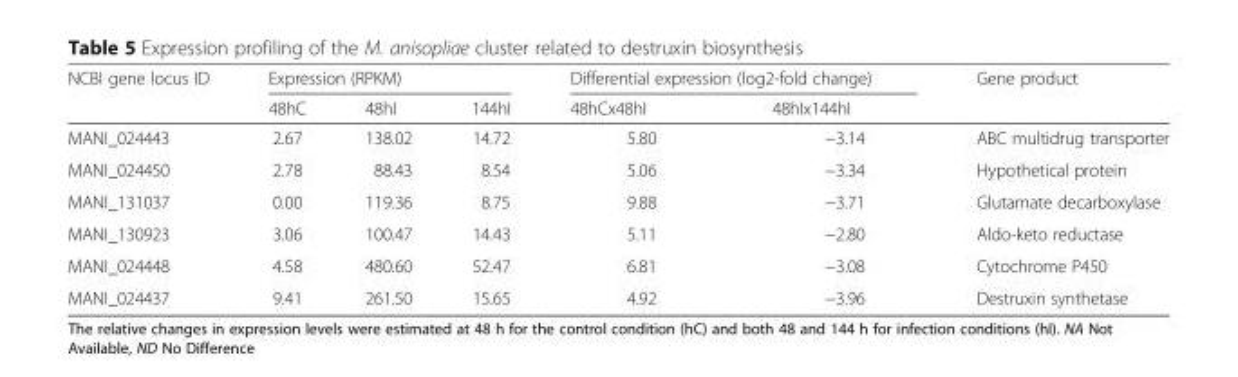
<table><thead><tr><td rowspan="2">NCBI gene locus ID</td><td colspan="3">Expression (RPKM)</td><td colspan="2">Differential expression (log2-fold change)</td><td rowspan="2">Gene product</td></tr><tr><td>48hC</td><td>48hI</td><td>144hI</td><td>48hCx48hI</td><td>48hIx144hI</td></tr></thead><tbody><tr><td>MANI_024443</td><td>2.67</td><td>138.02</td><td>14.72</td><td>5.80</td><td>−3.14</td><td>ABC multidrug transporter</td></tr><tr><td>MANI_024450</td><td>2.78</td><td>88.43</td><td>8.54</td><td>5.06</td><td>−3.34</td><td>Hypothetical protein</td></tr><tr><td>MANI_131037</td><td>0.00</td><td>119.36</td><td>8.75</td><td>9.88</td><td>−3.71</td><td>Glutamate decarboxylase</td></tr><tr><td>MANI_130923</td><td>3.06</td><td>100.47</td><td>14.43</td><td>5.11</td><td>−2.80</td><td>Aldo-keto reductase</td></tr><tr><td>MANI_024448</td><td>4.58</td><td>480.60</td><td>52.47</td><td>6.81</td><td>−3.08</td><td>Cytochrome P450</td></tr><tr><td>MANI_024437</td><td>9.41</td><td>261.50</td><td>15.65</td><td>4.92</td><td>−3.96</td><td>Destruxin synthetase</td></tr></tbody></table>